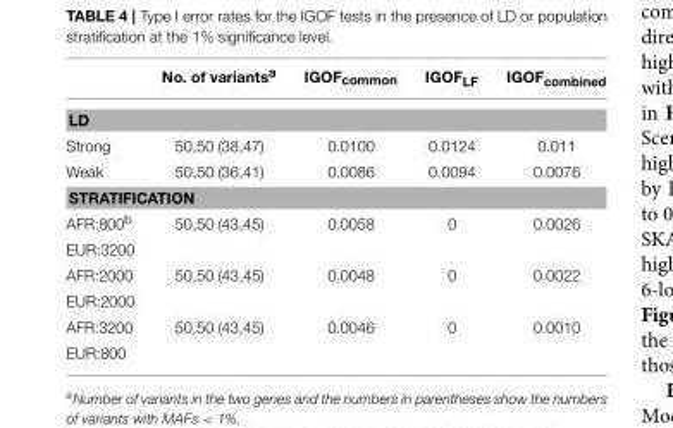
<table><thead><tr><td></td><td>No. of variants<sup>a</sup></td><td>IGOF<sub>common</sub></td><td>IGOF<sub>LF</sub></td><td>IGOF<sub>combined</sub></td></tr></thead><tbody><tr><td colspan="5">LD</td></tr><tr><td>Strong</td><td>50,50 (38,47)</td><td>0.0100</td><td>0.0124</td><td>0.011</td></tr><tr><td>Weak</td><td>50,50 (36,41)</td><td>0.0086</td><td>0.0094</td><td>0.0076</td></tr><tr><td colspan="5">STRATIFICATION</td></tr><tr><td>AFR:800<sup>b</sup></td><td>50,50 (43,45)</td><td>0.0058</td><td>0</td><td>0.0026</td></tr><tr><td colspan="5">EUR:3200</td></tr><tr><td>AFR:2000</td><td>50,50 (43,45)</td><td>0.0048</td><td>0</td><td>0.0022</td></tr><tr><td colspan="5">EUR:2000</td></tr><tr><td>AFR:3200</td><td>50,50 (43,45)</td><td>0.0046</td><td>0</td><td>0.0010</td></tr><tr><td>EUR:800</td><td></td><td></td><td></td><td></td></tr></tbody></table>